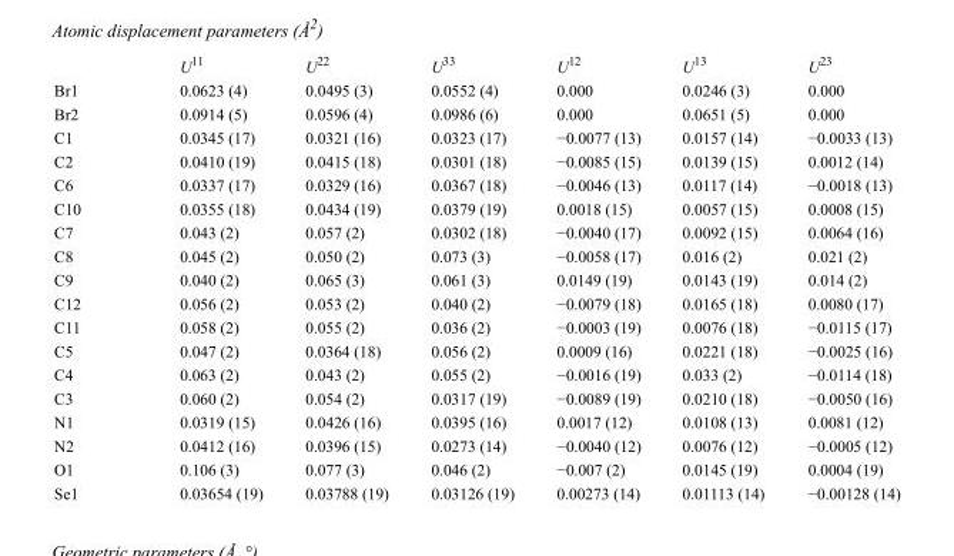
<table><thead><tr><td></td><td>U<sup>11</sup></td><td>U<sup>22</sup></td><td>U<sup>33</sup></td><td>U<sup>12</sup></td><td>U<sup>13</sup></td><td>U<sup>23</sup></td></tr></thead><tbody><tr><td>Br1</td><td>0.0623 (4)</td><td>0.0495 (3)</td><td>0.0552 (4)</td><td>0.000</td><td>0.0246 (3)</td><td>0.000</td></tr><tr><td>Br2</td><td>0.0914 (5)</td><td>0.0596 (4)</td><td>0.0986 (6)</td><td>0.000</td><td>0.0651 (5)</td><td>0.000</td></tr><tr><td>C1</td><td>0.0345 (17)</td><td>0.0321 (16)</td><td>0.0323 (17)</td><td>−0.0077 (13)</td><td>0.0157 (14)</td><td>−0.0033 (13)</td></tr><tr><td>C2</td><td>0.0410 (19)</td><td>0.0415 (18)</td><td>0.0301 (18)</td><td>−0.0085 (15)</td><td>0.0139 (15)</td><td>0.0012 (14)</td></tr><tr><td>C6</td><td>0.0337 (17)</td><td>0.0329 (16)</td><td>0.0367 (18)</td><td>−0.0046 (13)</td><td>0.0117 (14)</td><td>−0.0018 (13)</td></tr><tr><td>C10</td><td>0.0355 (18)</td><td>0.0434 (19)</td><td>0.0379 (19)</td><td>0.0018 (15)</td><td>0.0057 (15)</td><td>0.0008 (15)</td></tr><tr><td>C7</td><td>0.043 (2)</td><td>0.057 (2)</td><td>0.0302 (18)</td><td>−0.0040 (17)</td><td>0.0092 (15)</td><td>0.0064 (16)</td></tr><tr><td>C8</td><td>0.045 (2)</td><td>0.050 (2)</td><td>0.073 (3)</td><td>−0.0058 (17)</td><td>0.016 (2)</td><td>0.021 (2)</td></tr><tr><td>C9</td><td>0.040 (2)</td><td>0.065 (3)</td><td>0.061 (3)</td><td>0.0149 (19)</td><td>0.0143 (19)</td><td>0.014 (2)</td></tr><tr><td>C12</td><td>0.056 (2)</td><td>0.053 (2)</td><td>0.040 (2)</td><td>−0.0079 (18)</td><td>0.0165 (18)</td><td>0.0080 (17)</td></tr><tr><td>C11</td><td>0.058 (2)</td><td>0.055 (2)</td><td>0.036 (2)</td><td>−0.0003 (19)</td><td>0.0076 (18)</td><td>−0.0115 (17)</td></tr><tr><td>C5</td><td>0.047 (2)</td><td>0.0364 (18)</td><td>0.056 (2)</td><td>0.0009 (16)</td><td>0.0221 (18)</td><td>−0.0025 (16)</td></tr><tr><td>C4</td><td>0.063 (2)</td><td>0.043 (2)</td><td>0.055 (2)</td><td>−0.0016 (19)</td><td>0.033 (2)</td><td>−0.0114 (18)</td></tr><tr><td>C3</td><td>0.060 (2)</td><td>0.054 (2)</td><td>0.0317 (19)</td><td>−0.0089 (19)</td><td>0.0210 (18)</td><td>−0.0050 (16)</td></tr><tr><td>N1</td><td>0.0319 (15)</td><td>0.0426 (16)</td><td>0.0395 (16)</td><td>0.0017 (12)</td><td>0.0108 (13)</td><td>0.0081 (12)</td></tr><tr><td>N2</td><td>0.0412 (16)</td><td>0.0396 (15)</td><td>0.0273 (14)</td><td>−0.0040 (12)</td><td>0.0076 (12)</td><td>−0.0005 (12)</td></tr><tr><td>O1</td><td>0.106 (3)</td><td>0.077 (3)</td><td>0.046 (2)</td><td>−0.007 (2)</td><td>0.0145 (19)</td><td>0.0004 (19)</td></tr><tr><td>Se1</td><td>0.03654 (19)</td><td>0.03788 (19)</td><td>0.03126 (19)</td><td>0.00273 (14)</td><td>0.01113 (14)</td><td>−0.00128 (14)</td></tr></tbody></table>